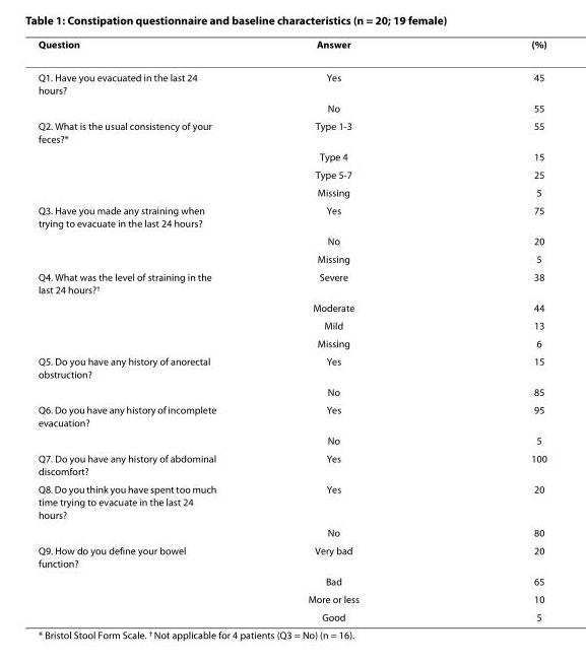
<table><thead><tr><td>Question</td><td>Answer</td><td>(%)</td></tr></thead><tbody><tr><td rowspan="2">Q1. Have you evacuated in the last 24 hours?</td><td>Yes</td><td>45</td></tr><tr><td>No</td><td>55</td></tr><tr><td rowspan="4">Q2. What is the usual consistency of your feces?*</td><td>Type 1-3</td><td>55</td></tr><tr><td>Type 4</td><td>15</td></tr><tr><td>Type 5-7</td><td>25</td></tr><tr><td>Missing</td><td>5</td></tr><tr><td rowspan="3">Q3. Have you made any straining when trying to evacuate in the last 24 hours?</td><td>Yes</td><td>75</td></tr><tr><td>No</td><td>20</td></tr><tr><td>Missing</td><td>5</td></tr><tr><td rowspan="4">Q4. What was the level of straining in the last 24 hours?<sup>†</sup></td><td>Severe</td><td>38</td></tr><tr><td>Moderate</td><td>44</td></tr><tr><td>Mild</td><td>13</td></tr><tr><td>Missing</td><td>6</td></tr><tr><td rowspan="2">Q5. Do you have any history of anorectal obstruction?</td><td>Yes</td><td>15</td></tr><tr><td>No</td><td>85</td></tr><tr><td rowspan="2">Q6. Do you have any history of incomplete evacuation?</td><td>Yes</td><td>95</td></tr><tr><td>No</td><td>5</td></tr><tr><td>Q7. Do you have any history of abdominal discomfort?</td><td>Yes</td><td>100</td></tr><tr><td rowspan="2">Q8. Do you think you have spent too much time trying to evacuate in the last 24 hours?</td><td>Yes</td><td>20</td></tr><tr><td>No</td><td>80</td></tr><tr><td rowspan="4">Q9. How do you define your bowel function?</td><td>Very bad</td><td>20</td></tr><tr><td>Bad</td><td>65</td></tr><tr><td>More or less</td><td>10</td></tr><tr><td>Good</td><td>5</td></tr></tbody></table>